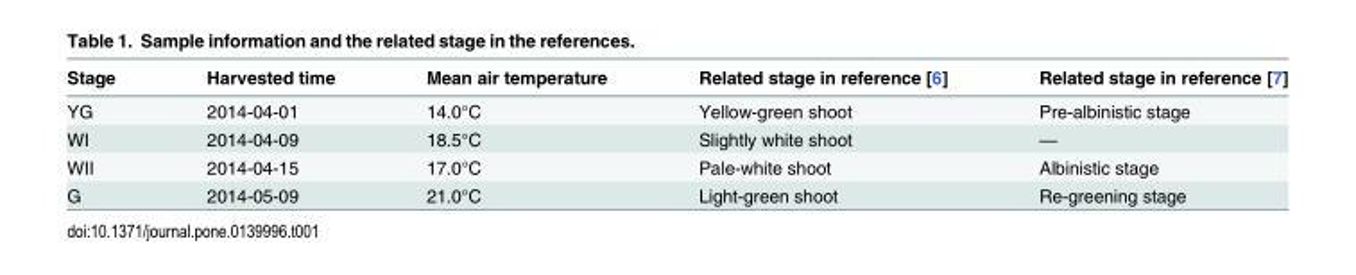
<table><thead><tr><td>Stage</td><td>Harvested time</td><td>Mean air temperature</td><td>Related stage in reference [6]</td><td>Related stage in reference [7]</td></tr></thead><tbody><tr><td>YG</td><td>2014-04-01</td><td>14.0°C</td><td>Yellow-green shoot</td><td>Pre-albinistic stage</td></tr><tr><td>WI</td><td>2014-04-09</td><td>18.5°C</td><td>Slightly white shoot</td><td>—</td></tr><tr><td>WII</td><td>2014-04-15</td><td>17.0°C</td><td>Pale-white shoot</td><td>Albinistic stage</td></tr><tr><td>G</td><td>2014-05-09</td><td>21.0°C</td><td>Light-green shoot</td><td>Re-greening stage</td></tr></tbody></table>